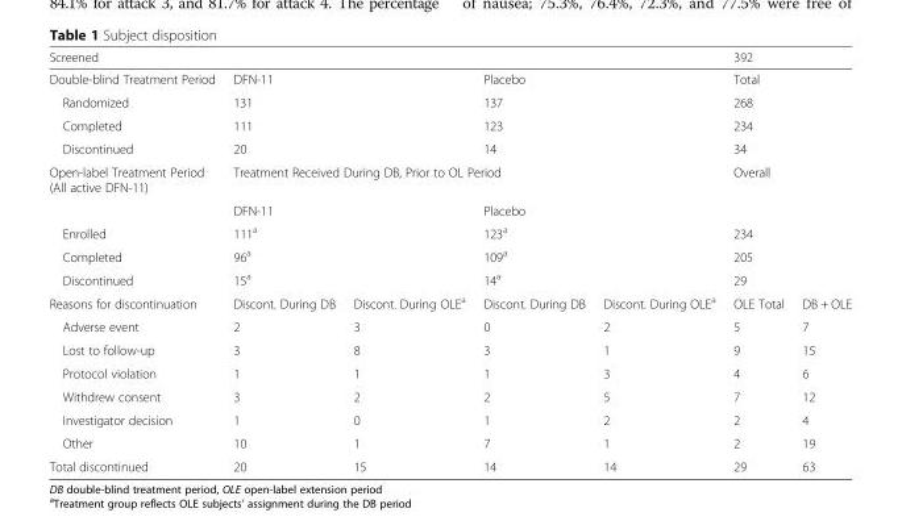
<table><thead><tr><td>Screened</td><td></td><td></td><td></td><td></td><td colspan="2">392</td></tr></thead><tbody><tr><td>Double-blind Treatment Period</td><td colspan="2">DFN-11</td><td colspan="2">Placebo</td><td colspan="2">Total</td></tr><tr><td>Randomized</td><td colspan="2">131</td><td colspan="2">137</td><td colspan="2">268</td></tr><tr><td>Completed</td><td colspan="2">111</td><td colspan="2">123</td><td colspan="2">234</td></tr><tr><td>Discontinued</td><td colspan="2">20</td><td colspan="2">14</td><td colspan="2">34</td></tr><tr><td rowspan="2">Open-label Treatment Period (All active DFN-11)</td><td colspan="4">Treatment Received During DB, Prior to OL Period</td><td colspan="2">Overall</td></tr><tr><td colspan="2">DFN-11</td><td colspan="2">Placebo</td><td colspan="2"></td></tr><tr><td>Enrolled</td><td colspan="2">111<sup>a</sup></td><td colspan="2">123<sup>a</sup></td><td colspan="2">234</td></tr><tr><td>Completed</td><td colspan="2">96<sup>a</sup></td><td colspan="2">109<sup>a</sup></td><td colspan="2">205</td></tr><tr><td>Discontinued</td><td colspan="2">15<sup>a</sup></td><td colspan="2">14<sup>a</sup></td><td colspan="2">29</td></tr><tr><td>Reasons for discontinuation</td><td>Discont. During DB</td><td>Discont. During OLE<sup>a</sup></td><td>Discont. During DB</td><td>Discont. During OLE<sup>a</sup></td><td>OLE Total</td><td>DB + OLE</td></tr><tr><td>Adverse event</td><td>2</td><td>3</td><td>0</td><td>2</td><td>5</td><td>7</td></tr><tr><td>Lost to follow-up</td><td>3</td><td>8</td><td>3</td><td>1</td><td>9</td><td>15</td></tr><tr><td>Protocol violation</td><td>1</td><td>1</td><td>1</td><td>3</td><td>4</td><td>6</td></tr><tr><td>Withdrew consent</td><td>3</td><td>2</td><td>2</td><td>5</td><td>7</td><td>12</td></tr><tr><td>Investigator decision</td><td>1</td><td>0</td><td>1</td><td>2</td><td>2</td><td>4</td></tr><tr><td>Other</td><td>10</td><td>1</td><td>7</td><td>1</td><td>2</td><td>19</td></tr><tr><td>Total discontinued</td><td>20</td><td>15</td><td>14</td><td>14</td><td>29</td><td>63</td></tr></tbody></table>